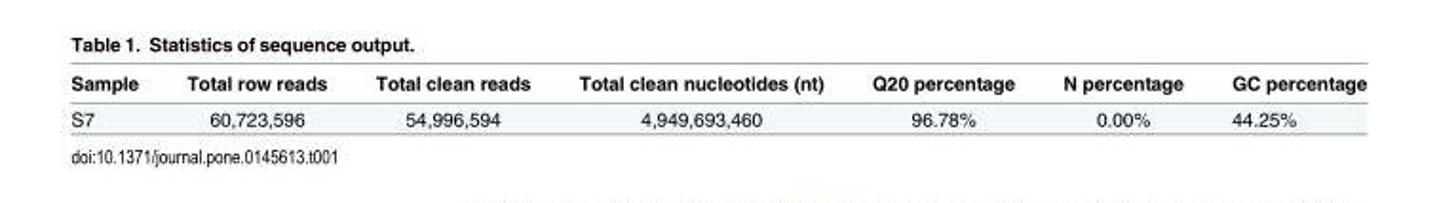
<table><thead><tr><td>Sample</td><td>Total row reads</td><td>Total clean reads</td><td>Total clean nucleotides (nt)</td><td>Q20 percentage</td><td>N percentage</td><td>GC percentage</td></tr></thead><tbody><tr><td>S7</td><td>60,723,596</td><td>54,996,594</td><td>4,949,693,460</td><td>96.78%</td><td>0.00%</td><td>44.25%</td></tr></tbody></table>